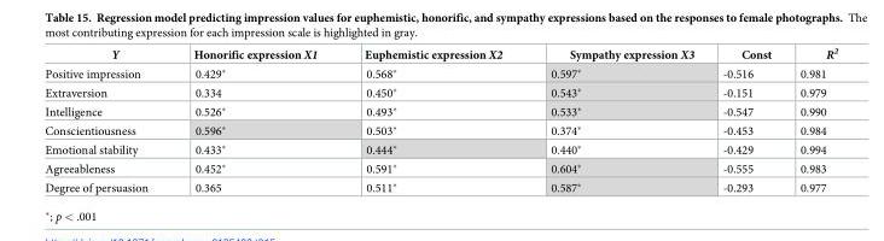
<table><thead><tr><td>Y</td><td>Honorific expression X1</td><td>Euphemistic expression X2</td><td>Sympathy expression X3</td><td>Const</td><td>R<sup>2</sup></td></tr></thead><tbody><tr><td>Positive impression</td><td>0.429*</td><td>0.568*</td><td>0.597*</td><td>-0.516</td><td>0.981</td></tr><tr><td>Extraversion</td><td>0.334</td><td>0.450*</td><td>0.543*</td><td>-0.151</td><td>0.979</td></tr><tr><td>Intelligence</td><td>0.526*</td><td>0.493*</td><td>0.533*</td><td>-0.547</td><td>0.990</td></tr><tr><td>Conscientiousness</td><td>0.596*</td><td>0.503*</td><td>0.374*</td><td>-0.453</td><td>0.984</td></tr><tr><td>Emotional stability</td><td>0.433*</td><td>0.444*</td><td>0.440*</td><td>-0.429</td><td>0.994</td></tr><tr><td>Agreeableness</td><td>0.452*</td><td>0.591*</td><td>0.604*</td><td>-0.555</td><td>0.983</td></tr><tr><td>Degree of persuasion</td><td>0.365</td><td>0.511*</td><td>0.587*</td><td>-0.293</td><td>0.977</td></tr></tbody></table>